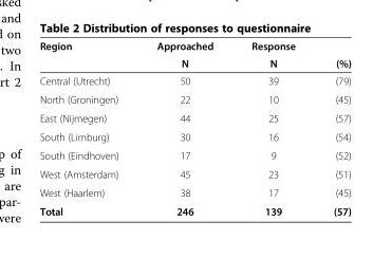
<table><thead><tr><td rowspan="2">Region</td><td rowspan="2">Approached N</td><td rowspan="2">Response N</td><td rowspan="2">(%)</td></tr><tr></tr></thead><tbody><tr><td>Central (Utrecht)</td><td>50</td><td>39</td><td>(79)</td></tr><tr><td>North (Groningen)</td><td>22</td><td>10</td><td>(45)</td></tr><tr><td>East (Nijmegen)</td><td>44</td><td>25</td><td>(57)</td></tr><tr><td>South (Limburg)</td><td>30</td><td>16</td><td>(54)</td></tr><tr><td>South (Eindhoven)</td><td>17</td><td>9</td><td>(52)</td></tr><tr><td>West (Amsterdam)</td><td>45</td><td>23</td><td>(51)</td></tr><tr><td>West (Haarlem)</td><td>38</td><td>17</td><td>(45)</td></tr><tr><td>Total</td><td>246</td><td>139</td><td>(57)</td></tr></tbody></table>